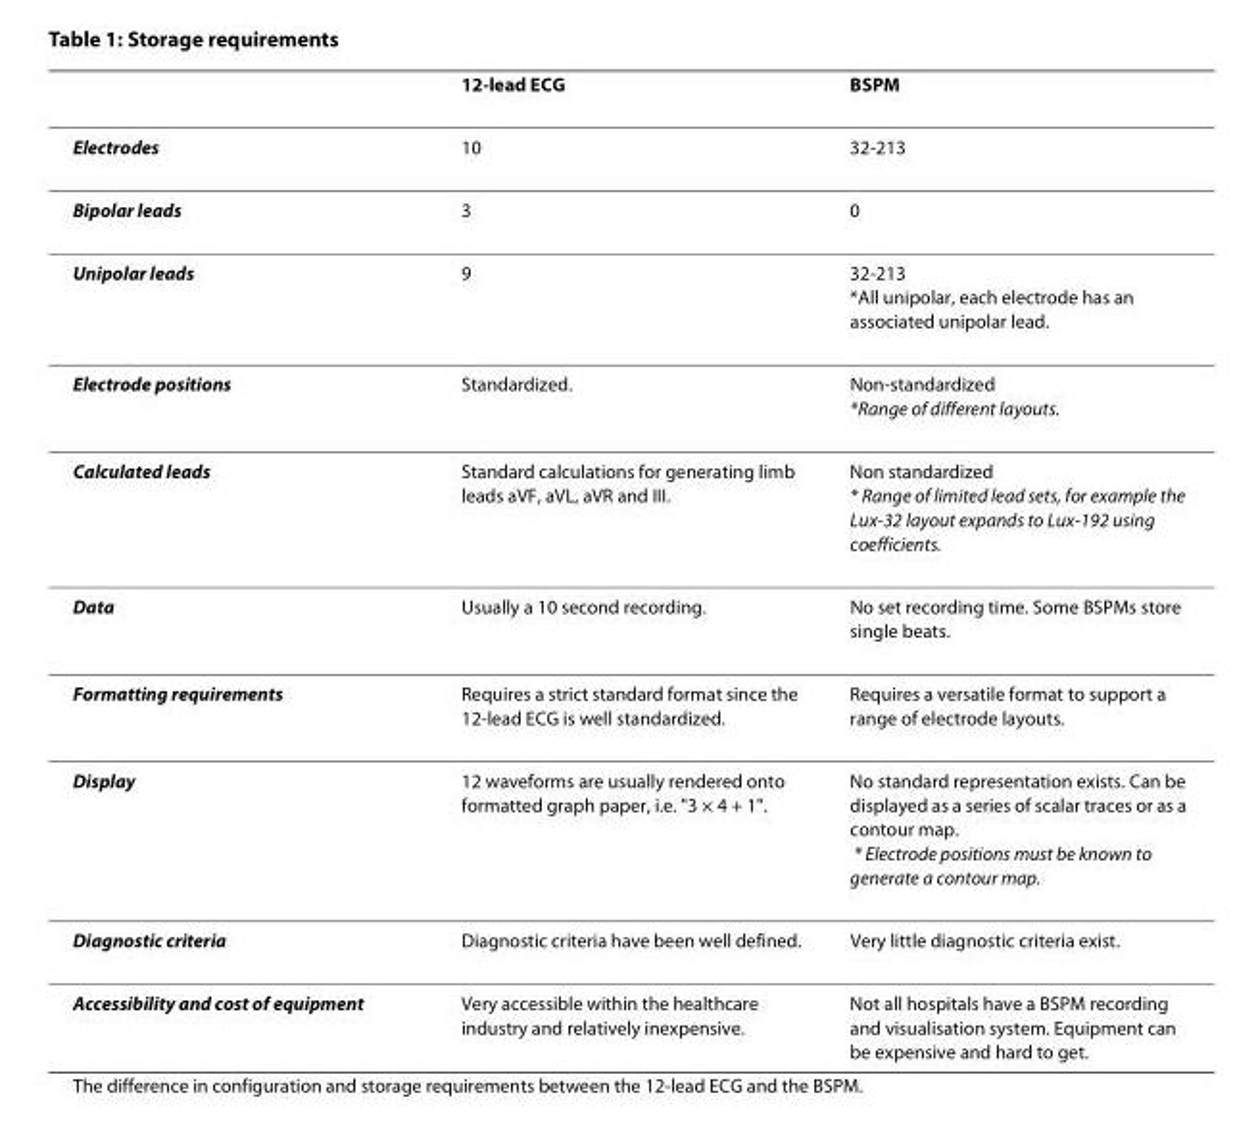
<table><thead><tr><td></td><td>12-lead ECG</td><td>BSPM</td></tr></thead><tbody><tr><td>Electrodes</td><td>10</td><td>32-213</td></tr><tr><td>Bipolar leads</td><td>3</td><td>0</td></tr><tr><td>Unipolar leads</td><td>9</td><td>32-213 *All unipolar, each electrode has an associated unipolar lead.</td></tr><tr><td>Electrode positions</td><td>Standardized.</td><td>Non-standardized *Range of different layouts.</td></tr><tr><td>Calculated leads</td><td>Standard calculations for generating limb leads aVF, aVL, aVR and III.</td><td>Non standardized * Range of limited lead sets, for example the Lux-32 layout expands to Lux-192 using coefficients.</td></tr><tr><td>Data</td><td>Usually a 10 second recording.</td><td>No set recording time. Some BSPMs store single beats.</td></tr><tr><td>Formatting requirements</td><td>Requires a strict standard format since the 12-lead ECG is well standardized.</td><td>Requires a versatile format to support a range of electrode layouts.</td></tr><tr><td>Display</td><td>12 waveforms are usually rendered onto formatted graph paper, i.e. &quot;3 × 4 + 1&quot;.</td><td>No standard representation exists. Can be displayed as a series of scalar traces or as a contour map. * Electrode positions must be known to generate a contour map.</td></tr><tr><td>Diagnostic criteria</td><td>Diagnostic criteria have been well defined.</td><td>Very little diagnostic criteria exist.</td></tr><tr><td>Accessibility and cost of equipment</td><td>Very accessible within the healthcare industry and relatively inexpensive.</td><td>Not all hospitals have a BSPM recording and visualisation system. Equipment can be expensive and hard to get.</td></tr></tbody></table>